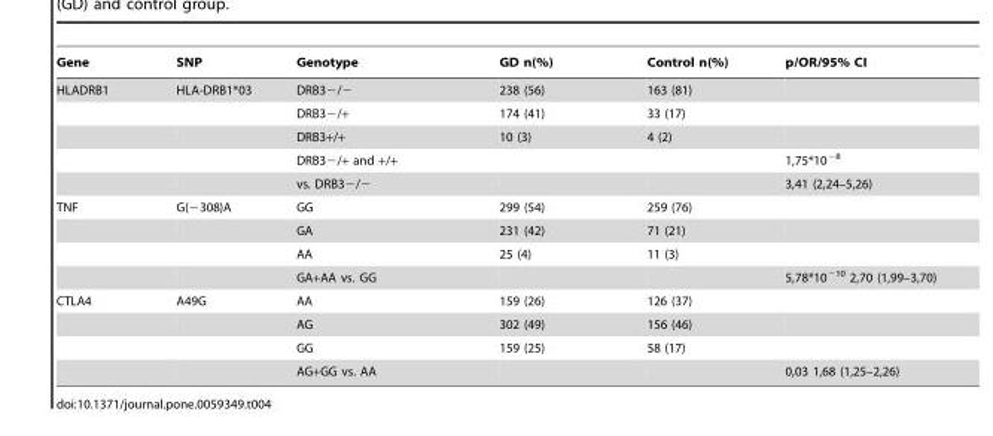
<table><thead><tr><td>Gene</td><td>SNP</td><td>Genotype</td><td>GD n(%)</td><td>Control n(%)</td><td>p/OR/95% CI</td></tr></thead><tbody><tr><td rowspan="5">HLADRB1</td><td>HLA-DRB1*03</td><td>DRB3−/−</td><td>238 (56)</td><td>163 (81)</td><td></td></tr><tr><td></td><td>DRB3−/+</td><td>174 (41)</td><td>33 (17)</td><td></td></tr><tr><td></td><td>DRB3+/+</td><td>10 (3)</td><td>4 (2)</td><td></td></tr><tr><td></td><td>DRB3−/+ and +/+</td><td></td><td></td><td>1,75*10<sup>−8</sup></td></tr><tr><td></td><td>vs. DRB3−/−</td><td></td><td></td><td>3,41 (2,24–5,26)</td></tr><tr><td rowspan="4">TNF</td><td>G(−308)A</td><td>GG</td><td>299 (54)</td><td>259 (76)</td><td></td></tr><tr><td></td><td>GA</td><td>231 (42)</td><td>71 (21)</td><td></td></tr><tr><td></td><td>AA</td><td>25 (4)</td><td>11 (3)</td><td></td></tr><tr><td></td><td>GA+AA vs. GG</td><td></td><td></td><td>5,78*10<sup>−10</sup> 2,70 (1,99–3,70)</td></tr><tr><td rowspan="4">CTLA4</td><td>A49G</td><td>AA</td><td>159 (26)</td><td>126 (37)</td><td></td></tr><tr><td></td><td>AG</td><td>302 (49)</td><td>156 (46)</td><td></td></tr><tr><td></td><td>GG</td><td>159 (25)</td><td>58 (17)</td><td></td></tr><tr><td></td><td>AG+GG vs. AA</td><td></td><td></td><td>0,03 1,68 (1,25–2,26)</td></tr></tbody></table>